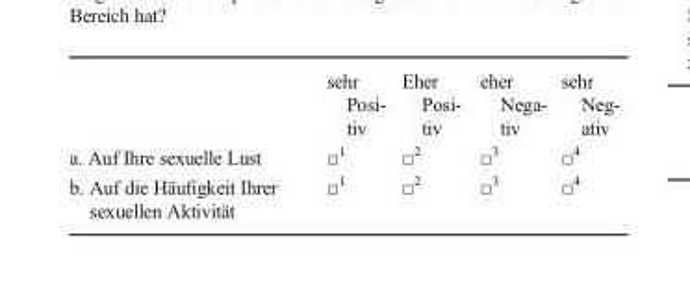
<table><thead><tr><td></td><td>sehr Posi- tiv</td><td>Eher Posi- tiv</td><td>eher Nega- tiv</td><td>sehr Neg- ativ</td></tr></thead><tbody><tr><td>a. Auf Ihre sexuelle Lust</td><td>□<sup>1</sup></td><td>□<sup>2</sup></td><td>□<sup>3</sup></td><td>□<sup>4</sup></td></tr><tr><td>b. Auf die Häufigkeit Ihrer sexuellen Aktivität</td><td>□<sup>1</sup></td><td>□<sup>2</sup></td><td>□<sup>3</sup></td><td>□<sup>4</sup></td></tr></tbody></table>